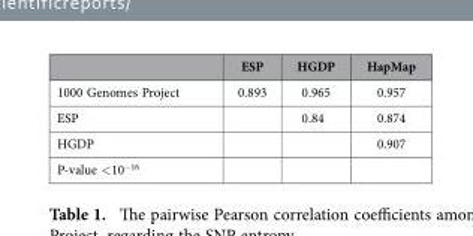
<table><thead><tr><td></td><td>ESP</td><td>HGDP</td><td>HapMap</td></tr></thead><tbody><tr><td>1000 Genomes Project</td><td>0.893</td><td>0.965</td><td>0.957</td></tr><tr><td>ESP</td><td></td><td>0.84</td><td>0.874</td></tr><tr><td>HGDP</td><td></td><td></td><td>0.907</td></tr><tr><td>P-value &lt;10<sup>−16</sup></td><td></td><td></td><td></td></tr></tbody></table>